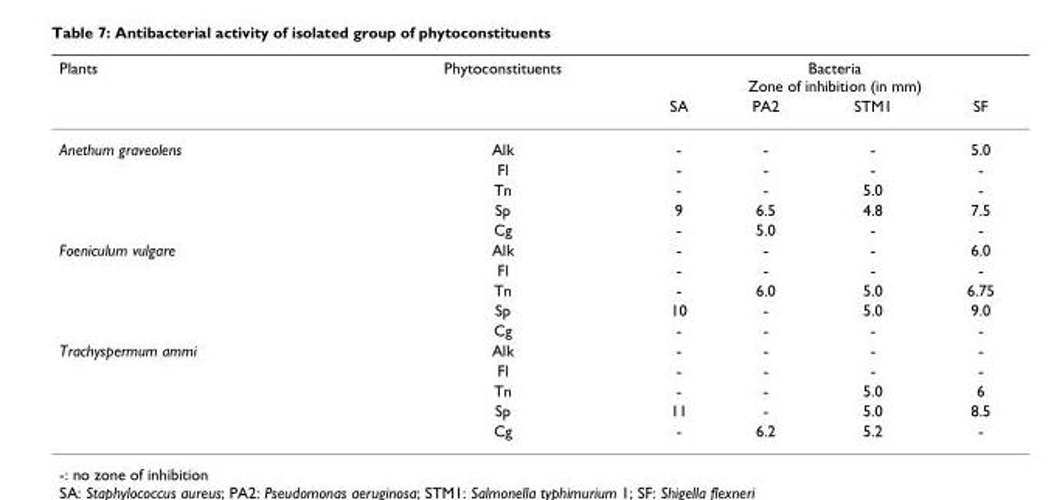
<table><thead><tr><td rowspan="2">Plants</td><td rowspan="2">Phytoconstituents</td><td colspan="4">Bacteria Zone of inhibition (in mm)</td></tr><tr><td>SA</td><td>PA2</td><td>STM1</td><td>SF</td></tr></thead><tbody><tr><td rowspan="5">Anethum graveolens</td><td>Alk</td><td>-</td><td>-</td><td>-</td><td>5.0</td></tr><tr><td>Fl</td><td>-</td><td>-</td><td>-</td><td>-</td></tr><tr><td>Tn</td><td>-</td><td>-</td><td>5.0</td><td>-</td></tr><tr><td>Sp</td><td>9</td><td>6.5</td><td>4.8</td><td>7.5</td></tr><tr><td>Cg</td><td>-</td><td>5.0</td><td>-</td><td>-</td></tr><tr><td rowspan="5">Foeniculum vulgare</td><td>Alk</td><td>-</td><td>-</td><td>-</td><td>6.0</td></tr><tr><td>Fl</td><td>-</td><td>-</td><td>-</td><td>-</td></tr><tr><td>Tn</td><td>-</td><td>6.0</td><td>5.0</td><td>6.75</td></tr><tr><td>Sp</td><td>10</td><td>-</td><td>5.0</td><td>9.0</td></tr><tr><td>Cg</td><td>-</td><td>-</td><td>-</td><td>-</td></tr><tr><td rowspan="5">Trachyspermum ammi</td><td>Alk</td><td>-</td><td>-</td><td>-</td><td>-</td></tr><tr><td>Fl</td><td>-</td><td>-</td><td>-</td><td>-</td></tr><tr><td>Tn</td><td>-</td><td>-</td><td>5.0</td><td>6</td></tr><tr><td>Sp</td><td>11</td><td>-</td><td>5.0</td><td>8.5</td></tr><tr><td>Cg</td><td>-</td><td>6.2</td><td>5.2</td><td>-</td></tr></tbody></table>